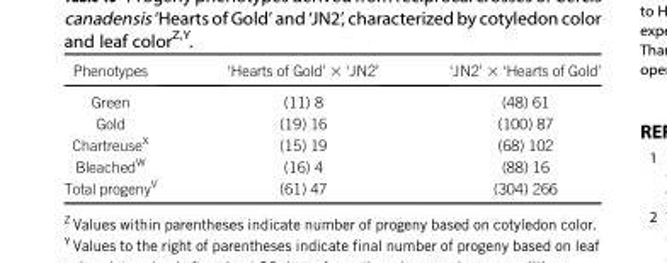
<table><thead><tr><td>Phenotypes</td><td>‘Hearts of Gold’ × ‘JN2’</td><td>‘JN2’ × ‘Hearts of Gold’</td></tr></thead><tbody><tr><td>Green</td><td>(11) 8</td><td>(48) 61</td></tr><tr><td>Gold</td><td>(19) 16</td><td>(100) 87</td></tr><tr><td>Chartreuse<sup>X</sup></td><td>(15) 19</td><td>(68) 102</td></tr><tr><td>Bleached<sup>W</sup></td><td>(16) 4</td><td>(88) 16</td></tr><tr><td>Total progeny<sup>V</sup></td><td>(61) 47</td><td>(304) 266</td></tr></tbody></table>